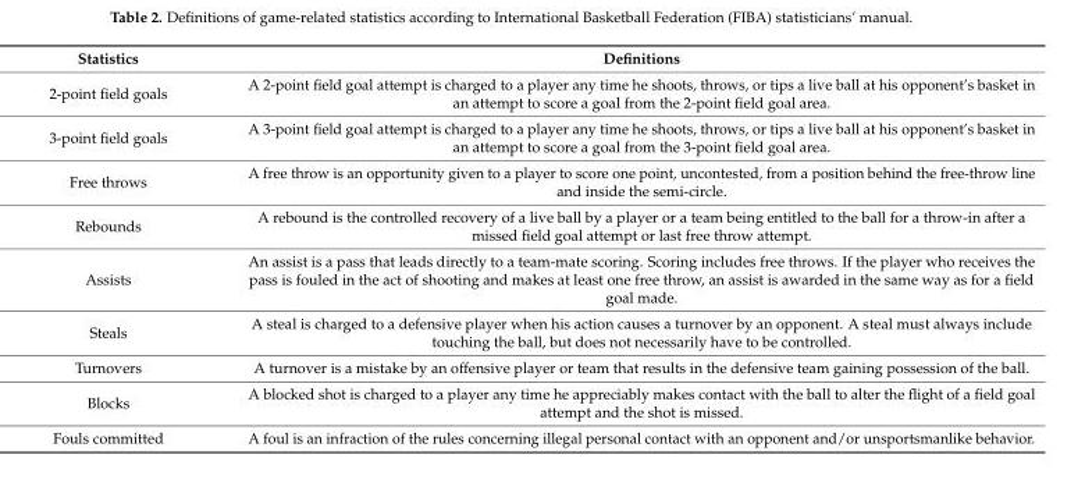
<table><thead><tr><td>Statistics</td><td>Definitions</td></tr></thead><tbody><tr><td>2-point field goals</td><td>A 2-point field goal attempt is charged to a player any time he shoots, throws, or tips a live ball at his opponent’s basket in an attempt to score a goal from the 2-point field goal area.</td></tr><tr><td>3-point field goals</td><td>A 3-point field goal attempt is charged to a player any time he shoots, throws, or tips a live ball at his opponent’s basket in an attempt to score a goal from the 3-point field goal area.</td></tr><tr><td>Free throws</td><td>A free throw is an opportunity given to a player to score one point, uncontested, from a position behind the free-throw line and inside the semi-circle.</td></tr><tr><td>Rebounds</td><td>A rebound is the controlled recovery of a live ball by a player or a team being entitled to the ball for a throw-in after a missed field goal attempt or last free throw attempt.</td></tr><tr><td>Assists</td><td>An assist is a pass that leads directly to a team-mate scoring. Scoring includes free throws. If the player who receives the pass is fouled in the act of shooting and makes at least one free throw, an assist is awarded in the same way as for a field goal made.</td></tr><tr><td>Steals</td><td>A steal is charged to a defensive player when his action causes a turnover by an opponent. A steal must always include touching the ball, but does not necessarily have to be controlled.</td></tr><tr><td>Turnovers</td><td>A turnover is a mistake by an offensive player or team that results in the defensive team gaining possession of the ball.</td></tr><tr><td>Blocks</td><td>A blocked shot is charged to a player any time he appreciably makes contact with the ball to alter the flight of a field goal attempt and the shot is missed.</td></tr><tr><td>Fouls committed</td><td>A foul is an infraction of the rules concerning illegal personal contact with an opponent and/or unsportsmanlike behavior.</td></tr></tbody></table>